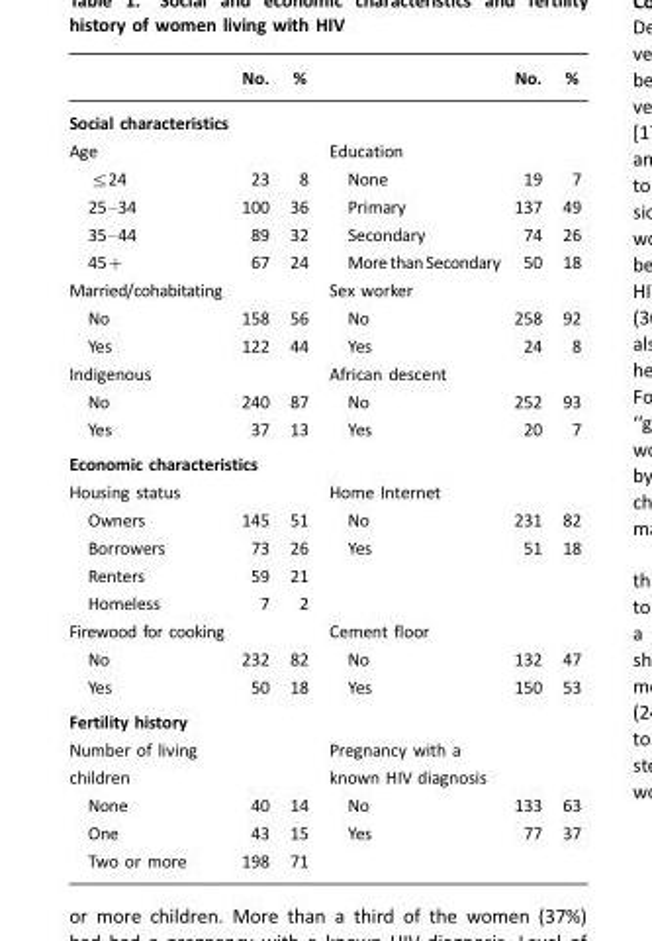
<table><thead><tr><td></td><td>No.</td><td>%</td><td></td><td>No.</td><td>%</td></tr></thead><tbody><tr><td colspan="6">Social characteristics</td></tr><tr><td>Age</td><td></td><td></td><td>Education</td><td></td><td></td></tr><tr><td>≤24</td><td>23</td><td>8</td><td>None</td><td>19</td><td>7</td></tr><tr><td>25–34</td><td>100</td><td>36</td><td>Primary</td><td>137</td><td>49</td></tr><tr><td>35–44</td><td>89</td><td>32</td><td>Secondary</td><td>74</td><td>26</td></tr><tr><td>45+</td><td>67</td><td>24</td><td>MorethanSecondary</td><td>50</td><td>18</td></tr><tr><td>Married/cohabitating</td><td></td><td></td><td>Sex worker</td><td></td><td></td></tr><tr><td>No</td><td>158</td><td>56</td><td>No</td><td>258</td><td>92</td></tr><tr><td>Yes</td><td>122</td><td>44</td><td>Yes</td><td>24</td><td>8</td></tr><tr><td>Indigenous</td><td></td><td></td><td>African descent</td><td></td><td></td></tr><tr><td>No</td><td>240</td><td>87</td><td>No</td><td>252</td><td>93</td></tr><tr><td>Yes</td><td>37</td><td>13</td><td>Yes</td><td>20</td><td>7</td></tr><tr><td colspan="6">Economic characteristics</td></tr><tr><td>Housing status</td><td></td><td></td><td>Home Internet</td><td></td><td></td></tr><tr><td>Owners</td><td>145</td><td>51</td><td>No</td><td>231</td><td>82</td></tr><tr><td>Borrowers</td><td>73</td><td>26</td><td>Yes</td><td>51</td><td>18</td></tr><tr><td>Renters</td><td>59</td><td>21</td><td></td><td></td><td></td></tr><tr><td>Homeless</td><td>7</td><td>2</td><td></td><td></td><td></td></tr><tr><td>Firewood for cooking</td><td></td><td></td><td>Cement floor</td><td></td><td></td></tr><tr><td>No</td><td>232</td><td>82</td><td>No</td><td>132</td><td>47</td></tr><tr><td>Yes</td><td>50</td><td>18</td><td>Yes</td><td>150</td><td>53</td></tr><tr><td colspan="6">Fertility history</td></tr><tr><td>Number of living children</td><td></td><td></td><td>Pregnancy with a known HIV diagnosis</td><td></td><td></td></tr><tr><td>None</td><td>40</td><td>14</td><td>No</td><td>133</td><td>63</td></tr><tr><td>One</td><td>43</td><td>15</td><td>Yes</td><td>77</td><td>37</td></tr><tr><td>Two or more</td><td>198</td><td>71</td><td></td><td></td><td></td></tr></tbody></table>